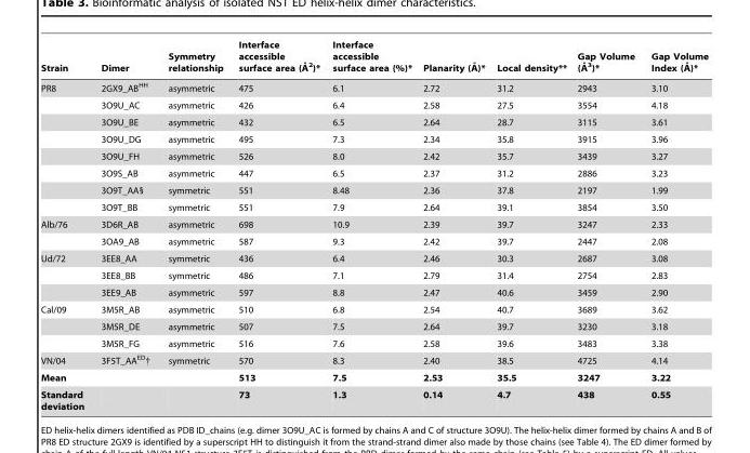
<table><thead><tr><td>Strain</td><td>Dimer</td><td>Symmetry relationship</td><td>Interface accessible surface area (A˚ 2)*</td><td>Interface accessible surface area (%)*</td><td>Planarity (A˚ )*</td><td>Local density**</td><td>Gap Volume (A˚ 3)*</td><td>Gap Volume Index (A˚ )*</td></tr></thead><tbody><tr><td rowspan="8">PR8</td><td>2GX9_AB<sup>HH</sup></td><td>asymmetric</td><td>475</td><td>6.1</td><td>2.72</td><td>31.2</td><td>2943</td><td>3.10</td></tr><tr><td>3O9U_AC</td><td>asymmetric</td><td>426</td><td>6.4</td><td>2.58</td><td>27.5</td><td>3554</td><td>4.18</td></tr><tr><td>3O9U_BE</td><td>asymmetric</td><td>432</td><td>6.5</td><td>2.64</td><td>28.7</td><td>3115</td><td>3.61</td></tr><tr><td>3O9U_DG</td><td>asymmetric</td><td>495</td><td>7.3</td><td>2.34</td><td>35.8</td><td>3915</td><td>3.96</td></tr><tr><td>3O9U_FH</td><td>asymmetric</td><td>526</td><td>8.0</td><td>2.42</td><td>35.7</td><td>3439</td><td>3.27</td></tr><tr><td>3O9S_AB</td><td>asymmetric</td><td>447</td><td>6.5</td><td>2.37</td><td>31.2</td><td>2886</td><td>3.23</td></tr><tr><td>3O9T_AA§</td><td>symmetric</td><td>551</td><td>8.48</td><td>2.36</td><td>37.8</td><td>2197</td><td>1.99</td></tr><tr><td>3O9T_BB</td><td>symmetric</td><td>551</td><td>7.9</td><td>2.64</td><td>39.1</td><td>3854</td><td>3.50</td></tr><tr><td rowspan="2">Alb/76</td><td>3D6R_AB</td><td>asymmetric</td><td>698</td><td>10.9</td><td>2.39</td><td>39.7</td><td>3247</td><td>2.33</td></tr><tr><td>3OA9_AB</td><td>asymmetric</td><td>587</td><td>9.3</td><td>2.42</td><td>39.7</td><td>2447</td><td>2.08</td></tr><tr><td rowspan="3">Ud/72</td><td>3EE8_AA</td><td>symmetric</td><td>436</td><td>6.4</td><td>2.46</td><td>30.3</td><td>2687</td><td>3.08</td></tr><tr><td>3EE8_BB</td><td>symmetric</td><td>486</td><td>7.1</td><td>2.79</td><td>31.4</td><td>2754</td><td>2.83</td></tr><tr><td>3EE9_AB</td><td>asymmetric</td><td>597</td><td>8.8</td><td>2.47</td><td>40.6</td><td>3459</td><td>2.90</td></tr><tr><td rowspan="3">Cal/09</td><td>3M5R_AB</td><td>asymmetric</td><td>510</td><td>6.8</td><td>2.54</td><td>40.7</td><td>3689</td><td>3.62</td></tr><tr><td>3M5R_DE</td><td>asymmetric</td><td>507</td><td>7.5</td><td>2.64</td><td>39.7</td><td>3230</td><td>3.18</td></tr><tr><td>3M5R_FG</td><td>asymmetric</td><td>516</td><td>7.6</td><td>2.58</td><td>39.6</td><td>3483</td><td>3.38</td></tr><tr><td>VN/04</td><td>3F5T_AA<sup>ED</sup>†</td><td>symmetric</td><td>570</td><td>8.3</td><td>2.40</td><td>38.5</td><td>4725</td><td>4.14</td></tr><tr><td>Mean</td><td></td><td></td><td>513</td><td>7.5</td><td>2.53</td><td>35.5</td><td>3247</td><td>3.22</td></tr><tr><td>Standard deviation</td><td></td><td></td><td>73</td><td>1.3</td><td>0.14</td><td>4.7</td><td>438</td><td>0.55</td></tr></tbody></table>